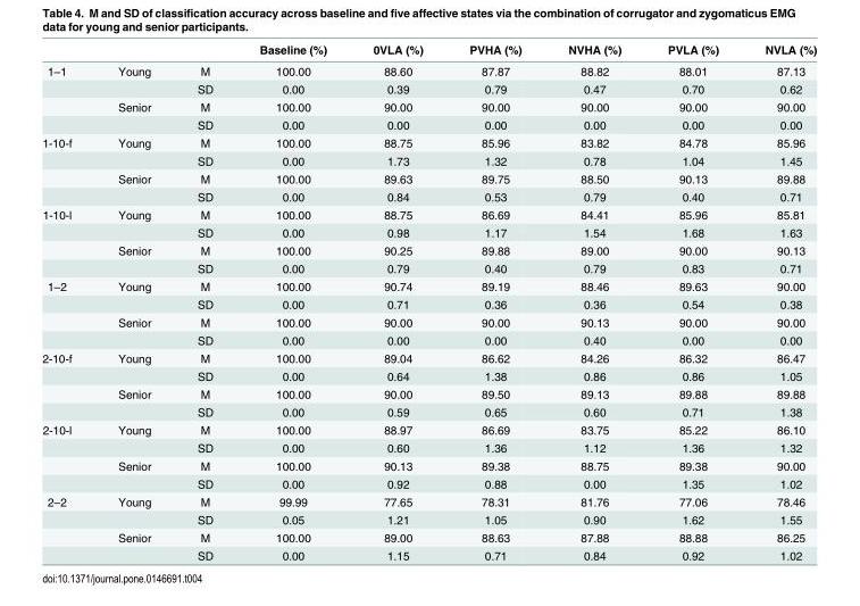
<table><thead><tr><td></td><td></td><td></td><td>Baseline (%)</td><td>0VLA (%)</td><td>PVHA (%)</td><td>NVHA (%)</td><td>PVLA (%)</td><td>NVLA (%)</td></tr></thead><tbody><tr><td rowspan="4">1–1</td><td>Young</td><td>M</td><td>100.00</td><td>88.60</td><td>87.87</td><td>88.82</td><td>88.01</td><td>87.13</td></tr><tr><td></td><td>SD</td><td>0.00</td><td>0.39</td><td>0.79</td><td>0.47</td><td>0.70</td><td>0.62</td></tr><tr><td>Senior</td><td>M</td><td>100.00</td><td>90.00</td><td>90.00</td><td>90.00</td><td>90.00</td><td>90.00</td></tr><tr><td></td><td>SD</td><td>0.00</td><td>0.00</td><td>0.00</td><td>0.00</td><td>0.00</td><td>0.00</td></tr><tr><td rowspan="4">1-10-f</td><td>Young</td><td>M</td><td>100.00</td><td>88.75</td><td>85.96</td><td>83.82</td><td>84.78</td><td>85.96</td></tr><tr><td></td><td>SD</td><td>0.00</td><td>1.73</td><td>1.32</td><td>0.78</td><td>1.04</td><td>1.45</td></tr><tr><td>Senior</td><td>M</td><td>100.00</td><td>89.63</td><td>89.75</td><td>88.50</td><td>90.13</td><td>89.88</td></tr><tr><td></td><td>SD</td><td>0.00</td><td>0.84</td><td>0.53</td><td>0.79</td><td>0.40</td><td>0.71</td></tr><tr><td rowspan="4">1-10-l</td><td>Young</td><td>M</td><td>100.00</td><td>88.75</td><td>86.69</td><td>84.41</td><td>85.96</td><td>85.81</td></tr><tr><td></td><td>SD</td><td>0.00</td><td>0.98</td><td>1.17</td><td>1.54</td><td>1.68</td><td>1.63</td></tr><tr><td>Senior</td><td>M</td><td>100.00</td><td>90.25</td><td>89.88</td><td>89.00</td><td>90.00</td><td>90.13</td></tr><tr><td></td><td>SD</td><td>0.00</td><td>0.79</td><td>0.40</td><td>0.79</td><td>0.83</td><td>0.71</td></tr><tr><td rowspan="4">1–2</td><td>Young</td><td>M</td><td>100.00</td><td>90.74</td><td>89.19</td><td>88.46</td><td>89.63</td><td>90.00</td></tr><tr><td></td><td>SD</td><td>0.00</td><td>0.71</td><td>0.36</td><td>0.36</td><td>0.54</td><td>0.38</td></tr><tr><td>Senior</td><td>M</td><td>100.00</td><td>90.00</td><td>90.00</td><td>90.13</td><td>90.00</td><td>90.00</td></tr><tr><td></td><td>SD</td><td>0.00</td><td>0.00</td><td>0.00</td><td>0.40</td><td>0.00</td><td>0.00</td></tr><tr><td rowspan="4">2-10-f</td><td>Young</td><td>M</td><td>100.00</td><td>89.04</td><td>86.62</td><td>84.26</td><td>86.32</td><td>86.47</td></tr><tr><td></td><td>SD</td><td>0.00</td><td>0.64</td><td>1.38</td><td>0.86</td><td>0.86</td><td>1.05</td></tr><tr><td>Senior</td><td>M</td><td>100.00</td><td>90.00</td><td>89.50</td><td>89.13</td><td>89.88</td><td>89.88</td></tr><tr><td></td><td>SD</td><td>0.00</td><td>0.59</td><td>0.65</td><td>0.60</td><td>0.71</td><td>1.38</td></tr><tr><td rowspan="4">2-10-l</td><td>Young</td><td>M</td><td>100.00</td><td>88.97</td><td>86.69</td><td>83.75</td><td>85.22</td><td>86.10</td></tr><tr><td></td><td>SD</td><td>0.00</td><td>0.60</td><td>1.36</td><td>1.12</td><td>1.36</td><td>1.32</td></tr><tr><td>Senior</td><td>M</td><td>100.00</td><td>90.13</td><td>89.38</td><td>88.75</td><td>89.38</td><td>90.00</td></tr><tr><td></td><td>SD</td><td>0.00</td><td>0.92</td><td>0.88</td><td>0.00</td><td>1.35</td><td>1.02</td></tr><tr><td rowspan="4">2–2</td><td>Young</td><td>M</td><td>99.99</td><td>77.65</td><td>78.31</td><td>81.76</td><td>77.06</td><td>78.46</td></tr><tr><td></td><td>SD</td><td>0.05</td><td>1.21</td><td>1.05</td><td>0.90</td><td>1.62</td><td>1.55</td></tr><tr><td>Senior</td><td>M</td><td>100.00</td><td>89.00</td><td>88.63</td><td>87.88</td><td>88.88</td><td>86.25</td></tr><tr><td></td><td>SD</td><td>0.00</td><td>1.15</td><td>0.71</td><td>0.84</td><td>0.92</td><td>1.02</td></tr></tbody></table>